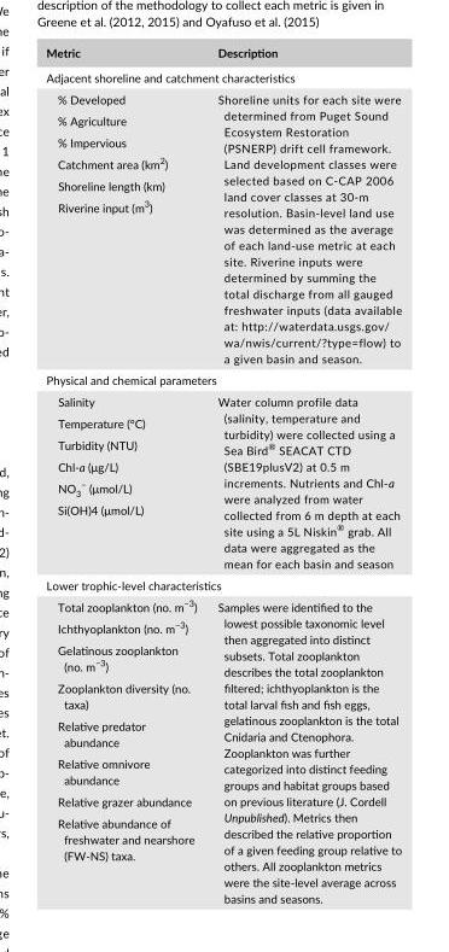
<table><thead><tr><td>Metric</td><td>Description</td></tr></thead><tbody><tr><td colspan="2">Adjacent shoreline and catchment characteristics</td></tr><tr><td>% Developed</td><td rowspan="6">Shoreline units for each site were determined from Puget Sound Ecosystem Restoration (PSNERP) drift cell framework. Land development classes were selected based on C- CAP 2006 land cover classes at 30- m resolution. Basin- level land use was determined as the average of each land- use metric at each site. Riverine inputs were determined by summing the total discharge from all gauged freshwater inputs (data available at: http://waterdata.usgs.gov/ wa/nwis/current/?type=flow) to a given basin and season.</td></tr><tr><td>% Agriculture</td></tr><tr><td>% Impervious</td></tr><tr><td>Catchment area (km<sup>2</sup>)</td></tr><tr><td>Shoreline length (km)</td></tr><tr><td>Riverine input (m<sup>3</sup>)</td></tr><tr><td colspan="2">Physical and chemical parameters</td></tr><tr><td>Salinity</td><td rowspan="6">Water column profile data (salinity, temperature and turbidity) were collected using a Sea Bird<sup>®</sup> SEACAT CTD (SBE19plusV2) at 0.5 m increments. Nutrients and Chl- a were analyzed from water collected from 6 m depth at each site using a 5L Niskin<sup>®</sup> grab. All data were aggregated as the mean for each basin and season</td></tr><tr><td>Temperature (°C)</td></tr><tr><td>Turbidity (NTU)</td></tr><tr><td>Chl- a (μg/L)</td></tr><tr><td>NO<sub>3</sub> <sup>−</sup> (μmol/L)</td></tr><tr><td>Si(OH)4 (μmol/L)</td></tr><tr><td colspan="2">Lower trophic- level characteristics</td></tr><tr><td>Total zooplankton (no. m<sup>−3</sup>)</td><td rowspan="8">Samples were identified to the lowest possible taxonomic level then aggregated into distinct subsets. Total zooplankton describes the total zooplankton filtered; ichthyoplankton is the total larval fish and fish eggs, gelatinous zooplankton is the total Cnidaria and Ctenophora. Zooplankton was further categorized into distinct feeding groups and habitat groups based on previous literature (J. Cordell Unpublished). Metrics then described the relative proportion of a given feeding group relative to others. All zooplankton metrics were the site- level average across basins and seasons.</td></tr><tr><td>Ichthyoplankton (no. m<sup>−3</sup>)</td></tr><tr><td>Gelatinous zooplankton (no. m<sup>−3</sup>)</td></tr><tr><td>Zooplankton diversity (no. taxa)</td></tr><tr><td>Relative predator abundance</td></tr><tr><td>Relative omnivore abundance</td></tr><tr><td>Relative grazer abundance</td></tr><tr><td>Relative abundance of freshwater and nearshore (FW- NS) taxa.</td></tr></tbody></table>